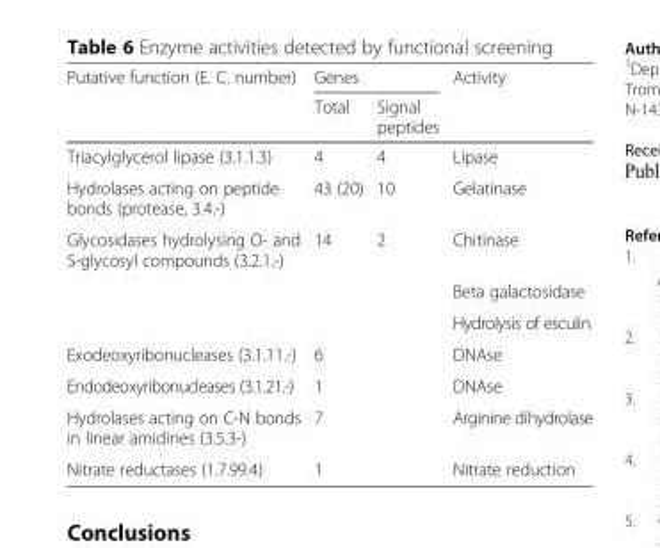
<table><thead><tr><td rowspan="2">Putative function (E. C. number)</td><td colspan="2">Genes</td><td rowspan="2">Activity</td></tr><tr><td>Total</td><td>Signal peptides</td></tr></thead><tbody><tr><td>Triacylglycerol lipase (3.1.1.3)</td><td>4</td><td>4</td><td>Lipase</td></tr><tr><td>Hydrolases acting on peptide bonds (protease, 3.4.-)</td><td>43 (20)</td><td>10</td><td>Gelatinase</td></tr><tr><td rowspan="3">Glycosidases hydrolysing O- and S-glycosyl compounds (3.2.1.-)</td><td>14</td><td>2</td><td>Chitinase</td></tr><tr><td></td><td></td><td>Beta galactosidase</td></tr><tr><td></td><td></td><td>Hydrolysis of esculin</td></tr><tr><td>Exodeoxyribonucleases (3.1.11.-)</td><td>6</td><td></td><td>DNAse</td></tr><tr><td>Endodeoxyribonucleases (3.1.21.-)</td><td>1</td><td></td><td>DNAse</td></tr><tr><td>Hydrolases acting on C-N bonds in linear amidines (3.5.3-)</td><td>7</td><td></td><td>Arginine dihydrolase</td></tr><tr><td>Nitrate reductases (1.7.99.4)</td><td>1</td><td></td><td>Nitrate reduction</td></tr></tbody></table>